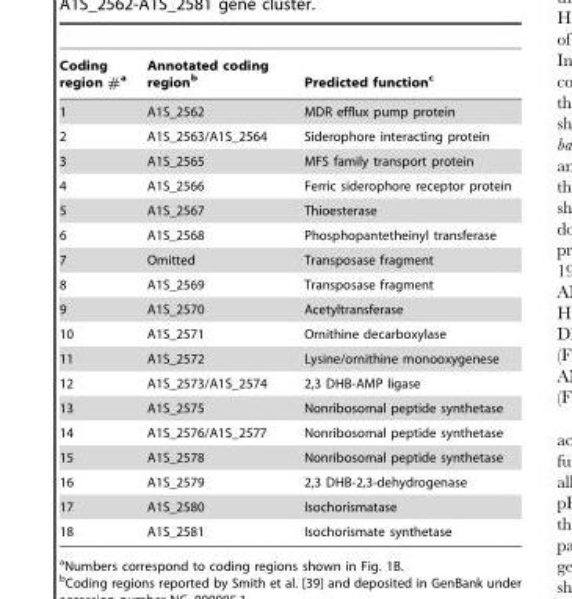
<table><thead><tr><td>Coding region #<sup>a</sup></td><td>Annotated coding region<sup>b</sup></td><td>Predicted function<sup>c</sup></td></tr></thead><tbody><tr><td>1</td><td>A1S_2562</td><td>MDR efflux pump protein</td></tr><tr><td>2</td><td>A1S_2563/A1S_2564</td><td>Siderophore interacting protein</td></tr><tr><td>3</td><td>A1S_2565</td><td>MFS family transport protein</td></tr><tr><td>4</td><td>A1S_2566</td><td>Ferric siderophore receptor protein</td></tr><tr><td>5</td><td>A1S_2567</td><td>Thioesterase</td></tr><tr><td>6</td><td>A1S_2568</td><td>Phosphopantetheinyl transferase</td></tr><tr><td>7</td><td>Omitted</td><td>Transposase fragment</td></tr><tr><td>8</td><td>A1S_2569</td><td>Transposase fragment</td></tr><tr><td>9</td><td>A1S_2570</td><td>Acetyltransferase</td></tr><tr><td>10</td><td>A1S_2571</td><td>Ornithine decarboxylase</td></tr><tr><td>11</td><td>A1S_2572</td><td>Lysine/ornithine monooxygenese</td></tr><tr><td>12</td><td>A1S_2573/A1S_2574</td><td>2,3 DHB-AMP ligase</td></tr><tr><td>13</td><td>A1S_2575</td><td>Nonribosomal peptide synthetase</td></tr><tr><td>14</td><td>A1S_2576/A1S_2577</td><td>Nonribosomal peptide synthetase</td></tr><tr><td>15</td><td>A1S_2578</td><td>Nonribosomal peptide synthetase</td></tr><tr><td>16</td><td>A1S_2579</td><td>2,3 DHB-2,3-dehydrogenase</td></tr><tr><td>17</td><td>A1S_2580</td><td>Isochorismatase</td></tr><tr><td>18</td><td>A1S_2581</td><td>Isochorismate synthetase</td></tr></tbody></table>